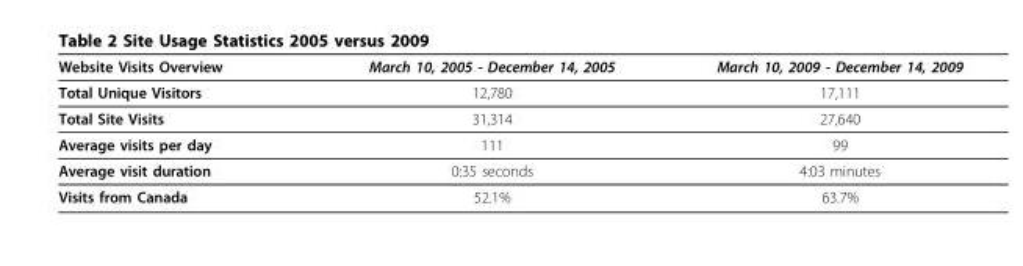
<table><thead><tr><td>Website Visits Overview</td><td>March 10, 2005 - December 14, 2005</td><td>March 10, 2009 - December 14, 2009</td></tr></thead><tbody><tr><td>Total Unique Visitors</td><td>12,780</td><td>17,111</td></tr><tr><td>Total Site Visits</td><td>31,314</td><td>27,640</td></tr><tr><td>Average visits per day</td><td>111</td><td>99</td></tr><tr><td>Average visit duration</td><td>0:35 seconds</td><td>4:03 minutes</td></tr><tr><td>Visits from Canada</td><td>52.1%</td><td>63.7%</td></tr></tbody></table>